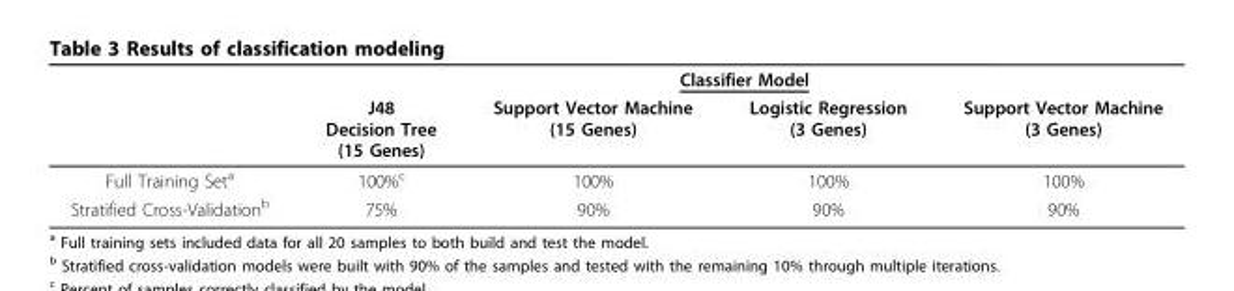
<table><thead><tr><td rowspan="2"></td><td colspan="4">Classifier Model</td></tr><tr><td>J48 Decision Tree (15 Genes)</td><td>Support Vector Machine (15 Genes)</td><td>Logistic Regression (3 Genes)</td><td>Support Vector Machine (3 Genes)</td></tr></thead><tbody><tr><td>Full Training Set<sup>a</sup></td><td>100%<sup>c</sup></td><td>100%</td><td>100%</td><td>100%</td></tr><tr><td>Stratified Cross-Validation<sup>b</sup></td><td>75%</td><td>90%</td><td>90%</td><td>90%</td></tr></tbody></table>